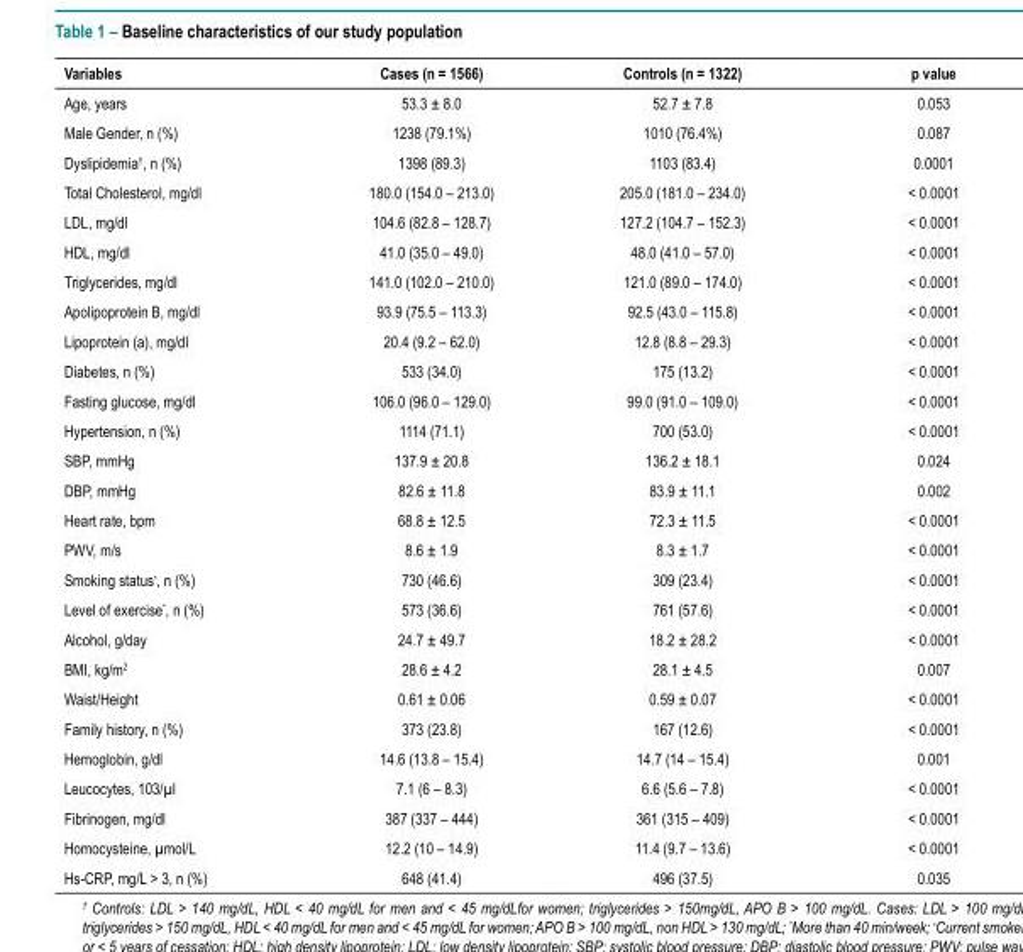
<table><thead><tr><td>Variables</td><td>Cases (n = 1566)</td><td>Controls (n = 1322)</td><td>p value</td></tr></thead><tbody><tr><td>Age, years</td><td>53.3 ± 8.0</td><td>52.7 ± 7.8</td><td>0.053</td></tr><tr><td>Male Gender, n (%)</td><td>1238 (79.1%)</td><td>1010 (76.4%)</td><td>0.087</td></tr><tr><td>Dyslipidemia<sup>†</sup>, n (%)</td><td>1398 (89.3)</td><td>1103 (83.4)</td><td>0.0001</td></tr><tr><td>Total Cholesterol, mg/dl</td><td>180.0 (154.0 – 213.0)</td><td>205.0 (181.0 – 234.0)</td><td>&lt; 0.0001</td></tr><tr><td>LDL, mg/dl</td><td>104.6 (82.8 – 128.7)</td><td>127.2 (104.7 – 152.3)</td><td>&lt; 0.0001</td></tr><tr><td>HDL, mg/dl</td><td>41.0 (35.0 – 49.0)</td><td>48.0 (41.0 – 57.0)</td><td>&lt; 0.0001</td></tr><tr><td>Triglycerides, mg/dl</td><td>141.0 (102.0 – 210.0)</td><td>121.0 (89.0 – 174.0)</td><td>&lt; 0.0001</td></tr><tr><td>Apolipoprotein B, mg/dl</td><td>93.9 (75.5 – 113.3)</td><td>92.5 (43.0 – 115.8)</td><td>&lt; 0.0001</td></tr><tr><td>Lipoprotein (a), mg/dl</td><td>20.4 (9.2 – 62.0)</td><td>12.8 (8.8 – 29.3)</td><td>&lt; 0.0001</td></tr><tr><td>Diabetes, n (%)</td><td>533 (34.0)</td><td>175 (13.2)</td><td>&lt; 0.0001</td></tr><tr><td>Fasting glucose, mg/dl</td><td>106.0 (96.0 – 129.0)</td><td>99.0 (91.0 – 109.0)</td><td>&lt; 0.0001</td></tr><tr><td>Hypertension, n (%)</td><td>1114 (71.1)</td><td>700 (53.0)</td><td>&lt; 0.0001</td></tr><tr><td>SBP, mmHg</td><td>137.9 ± 20.8</td><td>136.2 ± 18.1</td><td>0.024</td></tr><tr><td>DBP, mmHg</td><td>82.6 ± 11.8</td><td>83.9 ± 11.1</td><td>0.002</td></tr><tr><td>Heart rate, bpm</td><td>68.8 ± 12.5</td><td>72.3 ± 11.5</td><td>&lt; 0.0001</td></tr><tr><td>PWV, m/s</td><td>8.6 ± 1.9</td><td>8.3 ± 1.7</td><td>&lt; 0.0001</td></tr><tr><td>Smoking status<sup>•</sup>, n (%)</td><td>730 (46.6)</td><td>309 (23.4)</td><td>&lt; 0.0001</td></tr><tr><td>Level of exercise*, n (%)</td><td>573 (36.6)</td><td>761 (57.6)</td><td>&lt; 0.0001</td></tr><tr><td>Alcohol, g/day</td><td>24.7 ± 49.7</td><td>18.2 ± 28.2</td><td>&lt; 0.0001</td></tr><tr><td>BMI, kg/m<sup>2</sup></td><td>28.6 ± 4.2</td><td>28.1 ± 4.5</td><td>0.007</td></tr><tr><td>Waist/Height</td><td>0.61 ± 0.06</td><td>0.59 ± 0.07</td><td>&lt; 0.0001</td></tr><tr><td>Family history, n (%)</td><td>373 (23.8)</td><td>167 (12.6)</td><td>&lt; 0.0001</td></tr><tr><td>Hemoglobin, g/dl</td><td>14.6 (13.8 – 15.4)</td><td>14.7 (14 – 15.4)</td><td>0.001</td></tr><tr><td>Leucocytes, 103/µl</td><td>7.1 (6 – 8.3)</td><td>6.6 (5.6 – 7.8)</td><td>&lt; 0.0001</td></tr><tr><td>Fibrinogen, mg/dl</td><td>387 (337 – 444)</td><td>361 (315 – 409)</td><td>&lt; 0.0001</td></tr><tr><td>Homocysteine, µmol/L</td><td>12.2 (10 – 14.9)</td><td>11.4 (9.7 – 13.6)</td><td>&lt; 0.0001</td></tr><tr><td>Hs-CRP, mg/L &gt; 3, n (%)</td><td>648 (41.4)</td><td>496 (37.5)</td><td>0.035</td></tr></tbody></table>